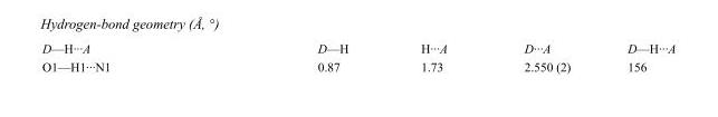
<table><tbody><tr><td>D—H···A</td><td>D—H</td><td>H···A</td><td>D···A</td><td>D—H···A</td></tr><tr><td>O1—H1···N1</td><td>0.87</td><td>1.73</td><td>2.550 (2)</td><td>156</td></tr></tbody></table>